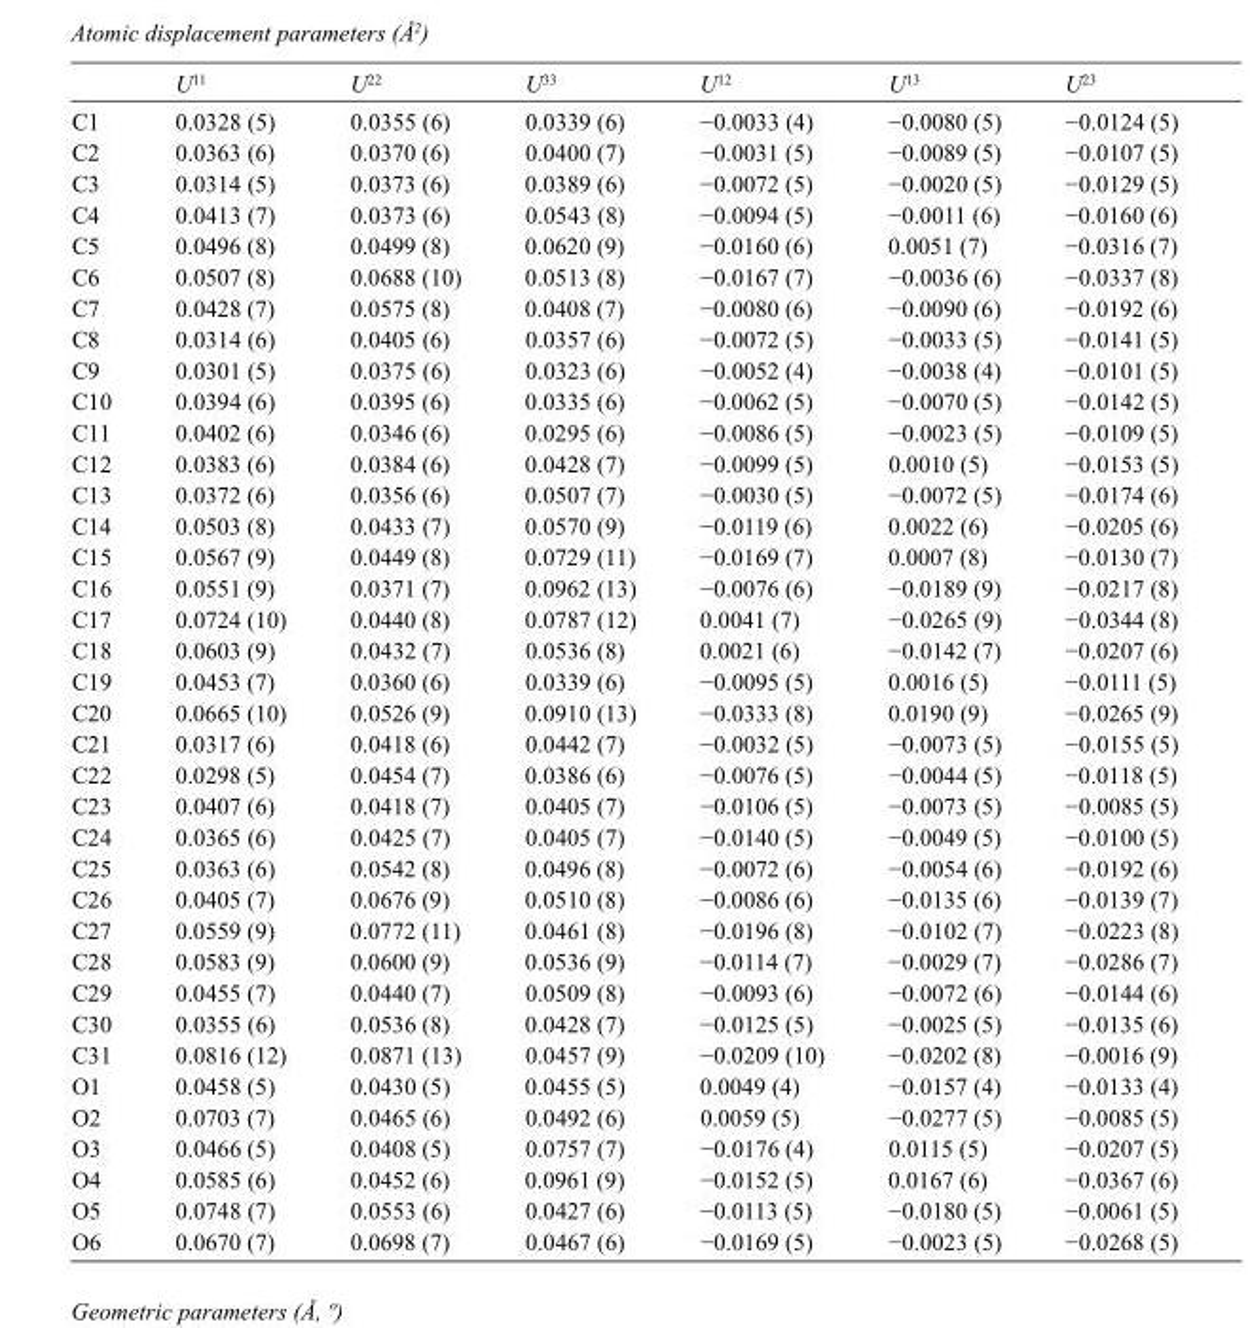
<table><thead><tr><td></td><td>U<sup>11</sup></td><td>U<sup>22</sup></td><td>U<sup>33</sup></td><td>U<sup>12</sup></td><td>U<sup>13</sup></td><td>U<sup>23</sup></td></tr></thead><tbody><tr><td>C1</td><td>0.0328 (5)</td><td>0.0355 (6)</td><td>0.0339 (6)</td><td>−0.0033 (4)</td><td>−0.0080 (5)</td><td>−0.0124 (5)</td></tr><tr><td>C2</td><td>0.0363 (6)</td><td>0.0370 (6)</td><td>0.0400 (7)</td><td>−0.0031 (5)</td><td>−0.0089 (5)</td><td>−0.0107 (5)</td></tr><tr><td>C3</td><td>0.0314 (5)</td><td>0.0373 (6)</td><td>0.0389 (6)</td><td>−0.0072 (5)</td><td>−0.0020 (5)</td><td>−0.0129 (5)</td></tr><tr><td>C4</td><td>0.0413 (7)</td><td>0.0373 (6)</td><td>0.0543 (8)</td><td>−0.0094 (5)</td><td>−0.0011 (6)</td><td>−0.0160 (6)</td></tr><tr><td>C5</td><td>0.0496 (8)</td><td>0.0499 (8)</td><td>0.0620 (9)</td><td>−0.0160 (6)</td><td>0.0051 (7)</td><td>−0.0316 (7)</td></tr><tr><td>C6</td><td>0.0507 (8)</td><td>0.0688 (10)</td><td>0.0513 (8)</td><td>−0.0167 (7)</td><td>−0.0036 (6)</td><td>−0.0337 (8)</td></tr><tr><td>C7</td><td>0.0428 (7)</td><td>0.0575 (8)</td><td>0.0408 (7)</td><td>−0.0080 (6)</td><td>−0.0090 (6)</td><td>−0.0192 (6)</td></tr><tr><td>C8</td><td>0.0314 (6)</td><td>0.0405 (6)</td><td>0.0357 (6)</td><td>−0.0072 (5)</td><td>−0.0033 (5)</td><td>−0.0141 (5)</td></tr><tr><td>C9</td><td>0.0301 (5)</td><td>0.0375 (6)</td><td>0.0323 (6)</td><td>−0.0052 (4)</td><td>−0.0038 (4)</td><td>−0.0101 (5)</td></tr><tr><td>C10</td><td>0.0394 (6)</td><td>0.0395 (6)</td><td>0.0335 (6)</td><td>−0.0062 (5)</td><td>−0.0070 (5)</td><td>−0.0142 (5)</td></tr><tr><td>C11</td><td>0.0402 (6)</td><td>0.0346 (6)</td><td>0.0295 (6)</td><td>−0.0086 (5)</td><td>−0.0023 (5)</td><td>−0.0109 (5)</td></tr><tr><td>C12</td><td>0.0383 (6)</td><td>0.0384 (6)</td><td>0.0428 (7)</td><td>−0.0099 (5)</td><td>0.0010 (5)</td><td>−0.0153 (5)</td></tr><tr><td>C13</td><td>0.0372 (6)</td><td>0.0356 (6)</td><td>0.0507 (7)</td><td>−0.0030 (5)</td><td>−0.0072 (5)</td><td>−0.0174 (6)</td></tr><tr><td>C14</td><td>0.0503 (8)</td><td>0.0433 (7)</td><td>0.0570 (9)</td><td>−0.0119 (6)</td><td>0.0022 (6)</td><td>−0.0205 (6)</td></tr><tr><td>C15</td><td>0.0567 (9)</td><td>0.0449 (8)</td><td>0.0729 (11)</td><td>−0.0169 (7)</td><td>0.0007 (8)</td><td>−0.0130 (7)</td></tr><tr><td>C16</td><td>0.0551 (9)</td><td>0.0371 (7)</td><td>0.0962 (13)</td><td>−0.0076 (6)</td><td>−0.0189 (9)</td><td>−0.0217 (8)</td></tr><tr><td>C17</td><td>0.0724 (10)</td><td>0.0440 (8)</td><td>0.0787 (12)</td><td>0.0041 (7)</td><td>−0.0265 (9)</td><td>−0.0344 (8)</td></tr><tr><td>C18</td><td>0.0603 (9)</td><td>0.0432 (7)</td><td>0.0536 (8)</td><td>0.0021 (6)</td><td>−0.0142 (7)</td><td>−0.0207 (6)</td></tr><tr><td>C19</td><td>0.0453 (7)</td><td>0.0360 (6)</td><td>0.0339 (6)</td><td>−0.0095 (5)</td><td>0.0016 (5)</td><td>−0.0111 (5)</td></tr><tr><td>C20</td><td>0.0665 (10)</td><td>0.0526 (9)</td><td>0.0910 (13)</td><td>−0.0333 (8)</td><td>0.0190 (9)</td><td>−0.0265 (9)</td></tr><tr><td>C21</td><td>0.0317 (6)</td><td>0.0418 (6)</td><td>0.0442 (7)</td><td>−0.0032 (5)</td><td>−0.0073 (5)</td><td>−0.0155 (5)</td></tr><tr><td>C22</td><td>0.0298 (5)</td><td>0.0454 (7)</td><td>0.0386 (6)</td><td>−0.0076 (5)</td><td>−0.0044 (5)</td><td>−0.0118 (5)</td></tr><tr><td>C23</td><td>0.0407 (6)</td><td>0.0418 (7)</td><td>0.0405 (7)</td><td>−0.0106 (5)</td><td>−0.0073 (5)</td><td>−0.0085 (5)</td></tr><tr><td>C24</td><td>0.0365 (6)</td><td>0.0425 (7)</td><td>0.0405 (7)</td><td>−0.0140 (5)</td><td>−0.0049 (5)</td><td>−0.0100 (5)</td></tr><tr><td>C25</td><td>0.0363 (6)</td><td>0.0542 (8)</td><td>0.0496 (8)</td><td>−0.0072 (6)</td><td>−0.0054 (6)</td><td>−0.0192 (6)</td></tr><tr><td>C26</td><td>0.0405 (7)</td><td>0.0676 (9)</td><td>0.0510 (8)</td><td>−0.0086 (6)</td><td>−0.0135 (6)</td><td>−0.0139 (7)</td></tr><tr><td>C27</td><td>0.0559 (9)</td><td>0.0772 (11)</td><td>0.0461 (8)</td><td>−0.0196 (8)</td><td>−0.0102 (7)</td><td>−0.0223 (8)</td></tr><tr><td>C28</td><td>0.0583 (9)</td><td>0.0600 (9)</td><td>0.0536 (9)</td><td>−0.0114 (7)</td><td>−0.0029 (7)</td><td>−0.0286 (7)</td></tr><tr><td>C29</td><td>0.0455 (7)</td><td>0.0440 (7)</td><td>0.0509 (8)</td><td>−0.0093 (6)</td><td>−0.0072 (6)</td><td>−0.0144 (6)</td></tr><tr><td>C30</td><td>0.0355 (6)</td><td>0.0536 (8)</td><td>0.0428 (7)</td><td>−0.0125 (5)</td><td>−0.0025 (5)</td><td>−0.0135 (6)</td></tr><tr><td>C31</td><td>0.0816 (12)</td><td>0.0871 (13)</td><td>0.0457 (9)</td><td>−0.0209 (10)</td><td>−0.0202 (8)</td><td>−0.0016 (9)</td></tr><tr><td>O1</td><td>0.0458 (5)</td><td>0.0430 (5)</td><td>0.0455 (5)</td><td>0.0049 (4)</td><td>−0.0157 (4)</td><td>−0.0133 (4)</td></tr><tr><td>O2</td><td>0.0703 (7)</td><td>0.0465 (6)</td><td>0.0492 (6)</td><td>0.0059 (5)</td><td>−0.0277 (5)</td><td>−0.0085 (5)</td></tr><tr><td>O3</td><td>0.0466 (5)</td><td>0.0408 (5)</td><td>0.0757 (7)</td><td>−0.0176 (4)</td><td>0.0115 (5)</td><td>−0.0207 (5)</td></tr><tr><td>O4</td><td>0.0585 (6)</td><td>0.0452 (6)</td><td>0.0961 (9)</td><td>−0.0152 (5)</td><td>0.0167 (6)</td><td>−0.0367 (6)</td></tr><tr><td>O5</td><td>0.0748 (7)</td><td>0.0553 (6)</td><td>0.0427 (6)</td><td>−0.0113 (5)</td><td>−0.0180 (5)</td><td>−0.0061 (5)</td></tr><tr><td>O6</td><td>0.0670 (7)</td><td>0.0698 (7)</td><td>0.0467 (6)</td><td>−0.0169 (5)</td><td>−0.0023 (5)</td><td>−0.0268 (5)</td></tr></tbody></table>